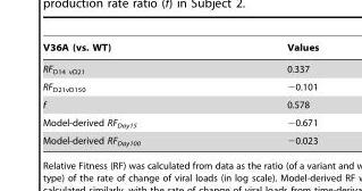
<table><thead><tr><td>V36A (vs. WT)</td><td>Values</td></tr></thead><tbody><tr><td>RF<sub>D14 vD21</sub></td><td>0.337</td></tr><tr><td>RF<sub>D21vD150</sub></td><td>−0.101</td></tr><tr><td>f</td><td>0.578</td></tr><tr><td>Model-derived RF<sub>Day15</sub></td><td>−0.671</td></tr><tr><td>Model-derived RF<sub>Day100</sub></td><td>−0.023</td></tr></tbody></table>